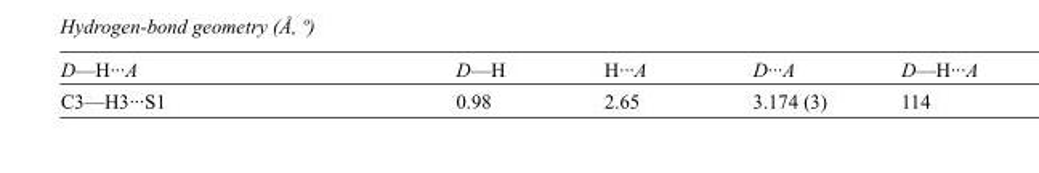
<table><tbody><tr><td>D—H···A</td><td>D—H</td><td>H···A</td><td>D···A</td><td>D—H···A</td></tr><tr><td>C3—H3···S1</td><td>0.98</td><td>2.65</td><td>3.174 (3)</td><td>114</td></tr></tbody></table>